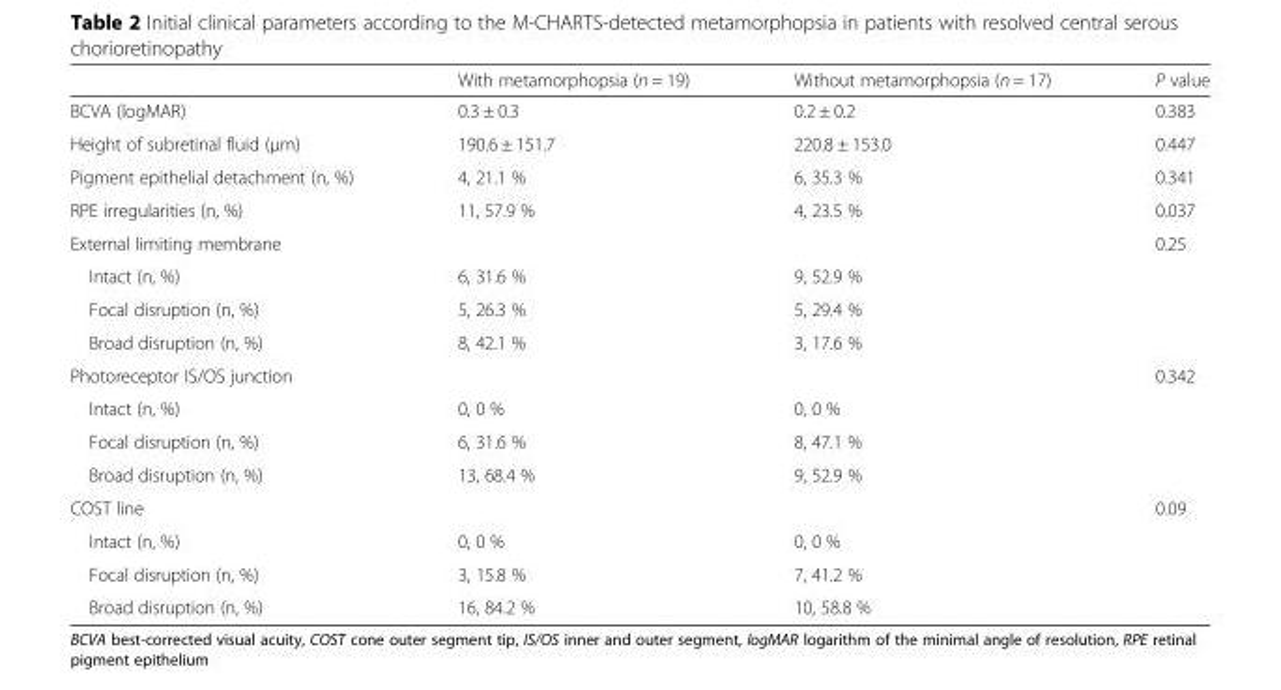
<table><thead><tr><td></td><td>With metamorphopsia (n = 19)</td><td>Without metamorphopsia (n = 17)</td><td>P value</td></tr></thead><tbody><tr><td>BCVA (logMAR)</td><td>0.3 ± 0.3</td><td>0.2 ± 0.2</td><td>0.383</td></tr><tr><td>Height of subretinal fluid (μm)</td><td>190.6 ± 151.7</td><td>220.8 ± 153.0</td><td>0.447</td></tr><tr><td>Pigment epithelial detachment (n, %)</td><td>4, 21.1 %</td><td>6, 35.3 %</td><td>0.341</td></tr><tr><td>RPE irregularities (n, %)</td><td>11, 57.9 %</td><td>4, 23.5 %</td><td>0.037</td></tr><tr><td>External limiting membrane</td><td></td><td></td><td>0.25</td></tr><tr><td>Intact (n, %)</td><td>6, 31.6 %</td><td>9, 52.9 %</td><td></td></tr><tr><td>Focal disruption (n, %)</td><td>5, 26.3 %</td><td>5, 29.4 %</td><td></td></tr><tr><td>Broad disruption (n, %)</td><td>8, 42.1 %</td><td>3, 17.6 %</td><td></td></tr><tr><td>Photoreceptor IS/OS junction</td><td></td><td></td><td>0.342</td></tr><tr><td>Intact (n, %)</td><td>0, 0 %</td><td>0, 0 %</td><td></td></tr><tr><td>Focal disruption (n, %)</td><td>6, 31.6 %</td><td>8, 47.1 %</td><td></td></tr><tr><td>Broad disruption (n, %)</td><td>13, 68.4 %</td><td>9, 52.9 %</td><td></td></tr><tr><td>COST line</td><td></td><td></td><td>0.09</td></tr><tr><td>Intact (n, %)</td><td>0, 0 %</td><td>0, 0 %</td><td></td></tr><tr><td>Focal disruption (n, %)</td><td>3, 15.8 %</td><td>7, 41.2 %</td><td></td></tr><tr><td>Broad disruption (n, %)</td><td>16, 84.2 %</td><td>10, 58.8 %</td><td></td></tr></tbody></table>